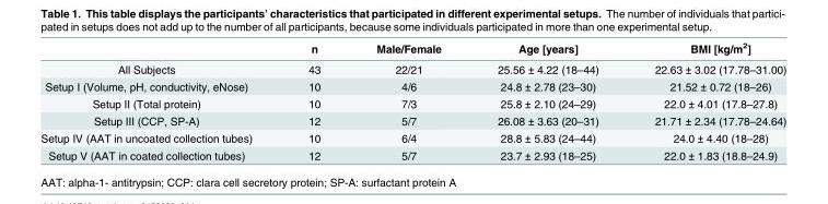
<table><thead><tr><td></td><td>n</td><td>Male/Female</td><td>Age [years]</td><td>BMI [kg/m<sup>2</sup>]</td></tr></thead><tbody><tr><td>All Subjects</td><td>43</td><td>22/21</td><td>25.56 ± 4.22 (18–44)</td><td>22.63 ± 3.02 (17.78–31.00)</td></tr><tr><td>Setup I (Volume, pH, conductivity, eNose)</td><td>10</td><td>4/6</td><td>24.8 ± 2.78 (23–30)</td><td>21.52 ± 0.72 (18–26)</td></tr><tr><td>Setup II (Total protein)</td><td>10</td><td>7/3</td><td>25.8 ± 2.10 (24–29)</td><td>22.0 ± 4.01 (17.8–27.8)</td></tr><tr><td>Setup III (CCP, SP-A)</td><td>12</td><td>5/7</td><td>26.08 ± 3.63 (20–31)</td><td>21.71 ± 2.34 (17.78–24.64)</td></tr><tr><td>Setup IV (AAT in uncoated collection tubes)</td><td>10</td><td>6/4</td><td>28.8 ± 5.83 (24–44)</td><td>24.0 ± 4.40 (18–28)</td></tr><tr><td>Setup V (AAT in coated collection tubes)</td><td>12</td><td>5/7</td><td>23.7 ± 2.93 (18–25)</td><td>22.0 ± 1.83 (18.8–24.9)</td></tr></tbody></table>